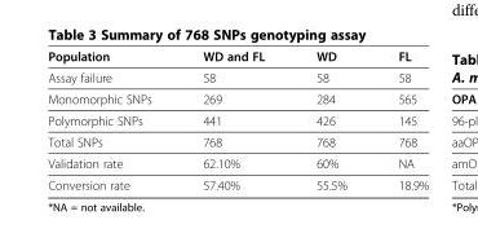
<table><thead><tr><td>Population</td><td>WD and FL</td><td>WD</td><td>FL</td></tr></thead><tbody><tr><td>Assay failure</td><td>58</td><td>58</td><td>58</td></tr><tr><td>Monomorphic SNPs</td><td>269</td><td>284</td><td>565</td></tr><tr><td>Polymorphic SNPs</td><td>441</td><td>426</td><td>145</td></tr><tr><td>Total SNPs</td><td>768</td><td>768</td><td>768</td></tr><tr><td>Validation rate</td><td>62.10%</td><td>60%</td><td>NA</td></tr><tr><td>Conversion rate</td><td>57.40%</td><td>55.5%</td><td>18.9%</td></tr></tbody></table>